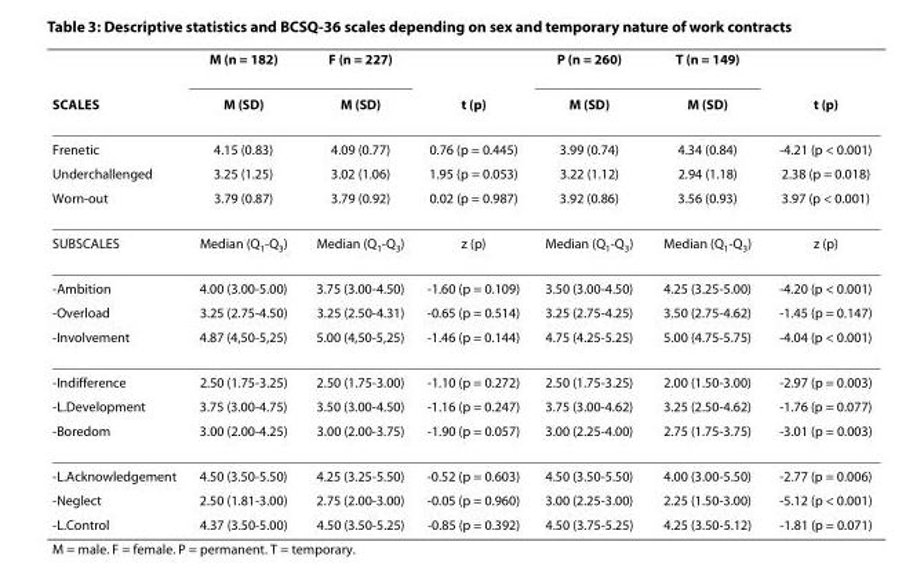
<table><thead><tr><td rowspan="2">SCALES</td><td rowspan="2">M (n = 182) M (SD)</td><td rowspan="2">F (n = 227) M (SD)</td><td rowspan="2">t (p)</td><td rowspan="2">P (n = 260) M (SD)</td><td rowspan="2">T (n = 149) M (SD)</td><td rowspan="2">t (p)</td></tr><tr></tr></thead><tbody><tr><td>Frenetic</td><td>4.15 (0.83)</td><td>4.09 (0.77)</td><td>0.76 (p = 0.445)</td><td>3.99 (0.74)</td><td>4.34 (0.84)</td><td>-4.21 (p &lt; 0.001)</td></tr><tr><td>Underchallenged</td><td>3.25 (1.25)</td><td>3.02 (1.06)</td><td>1.95 (p = 0.053)</td><td>3.22 (1.12)</td><td>2.94 (1.18)</td><td>2.38 (p = 0.018)</td></tr><tr><td>Worn-out</td><td>3.79 (0.87)</td><td>3.79 (0.92)</td><td>0.02 (p = 0.987)</td><td>3.92 (0.86)</td><td>3.56 (0.93)</td><td>3.97 (p &lt; 0.001)</td></tr><tr><td>SUBSCALES</td><td>Median (Q<sub>1</sub>-Q<sub>3</sub>)</td><td>Median (Q<sub>1</sub>-Q<sub>3</sub>)</td><td>z (p)</td><td>Median (Q<sub>1</sub>-Q<sub>3</sub>)</td><td>Median (Q<sub>1</sub>-Q<sub>3</sub>)</td><td>z (p)</td></tr><tr><td>-Ambition</td><td>4.00 (3.00-5.00)</td><td>3.75 (3.00-4.50)</td><td>-1.60 (p = 0.109)</td><td>3.50 (3.00-4.50)</td><td>4.25 (3.25-5.00)</td><td>-4.20 (p &lt; 0.001)</td></tr><tr><td>-Overload</td><td>3.25 (2.75-4.50)</td><td>3.25 (2.50-4.31)</td><td>-0.65 (p = 0.514)</td><td>3.25 (2.75-4.25)</td><td>3.50 (2.75-4.62)</td><td>-1.45 (p = 0.147)</td></tr><tr><td>-Involvement</td><td>4.87 (4,50-5,25)</td><td>5.00 (4,50-5,25)</td><td>-1.46 (p = 0.144)</td><td>4.75 (4.25-5.25)</td><td>5.00 (4.75-5.75)</td><td>-4.04 (p &lt; 0.001)</td></tr><tr><td>-Indifference</td><td>2.50 (1.75-3.25)</td><td>2.50 (1.75-3.00)</td><td>-1.10 (p = 0.272)</td><td>2.50 (1.75-3.25)</td><td>2.00 (1.50-3.00)</td><td>-2.97 (p = 0.003)</td></tr><tr><td>-L.Development</td><td>3.75 (3.00-4.75)</td><td>3.50 (3.00-4.50)</td><td>-1.16 (p = 0.247)</td><td>3.75 (3.00-4.62)</td><td>3.25 (2.50-4.62)</td><td>-1.76 (p = 0.077)</td></tr><tr><td>-Boredom</td><td>3.00 (2.00-4.25)</td><td>3.00 (2.00-3.75)</td><td>-1.90 (p = 0.057)</td><td>3.00 (2.25-4.00)</td><td>2.75 (1.75-3.75)</td><td>-3.01 (p = 0.003)</td></tr><tr><td>-L.Acknowledgement</td><td>4.50 (3.50-5.50)</td><td>4.25 (3.25-5.50)</td><td>-0.52 (p = 0.603)</td><td>4.50 (3.50-5.50)</td><td>4.00 (3.00-5.50)</td><td>-2.77 (p = 0.006)</td></tr><tr><td>-Neglect</td><td>2.50 (1.81-3.00)</td><td>2.75 (2.00-3.00)</td><td>-0.05 (p = 0.960)</td><td>3.00 (2.25-3.00)</td><td>2.25 (1.50-3.00)</td><td>-5.12 (p &lt; 0.001)</td></tr><tr><td>-L.Control</td><td>4.37 (3.50-5.00)</td><td>4.50 (3.50-5.25)</td><td>-0.85 (p = 0.392)</td><td>4.50 (3.75-5.25)</td><td>4.25 (3.50-5.12)</td><td>-1.81 (p = 0.071)</td></tr></tbody></table>